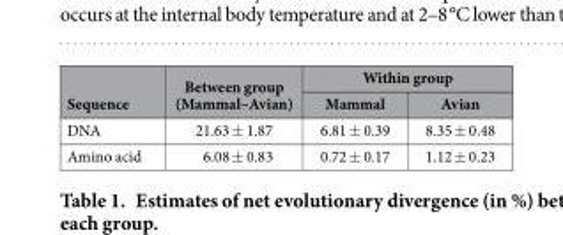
<table><thead><tr><td rowspan="2">Sequence</td><td rowspan="2">Between group (Mammal–Avian)</td><td colspan="2">Within group</td></tr><tr><td>Mammal</td><td>Avian</td></tr></thead><tbody><tr><td>DNA</td><td>21.63 ± 1.87</td><td>6.81 ± 0.39</td><td>8.35 ± 0.48</td></tr><tr><td>Amino acid</td><td>6.08 ± 0.83</td><td>0.72 ± 0.17</td><td>1.12 ± 0.23</td></tr></tbody></table>